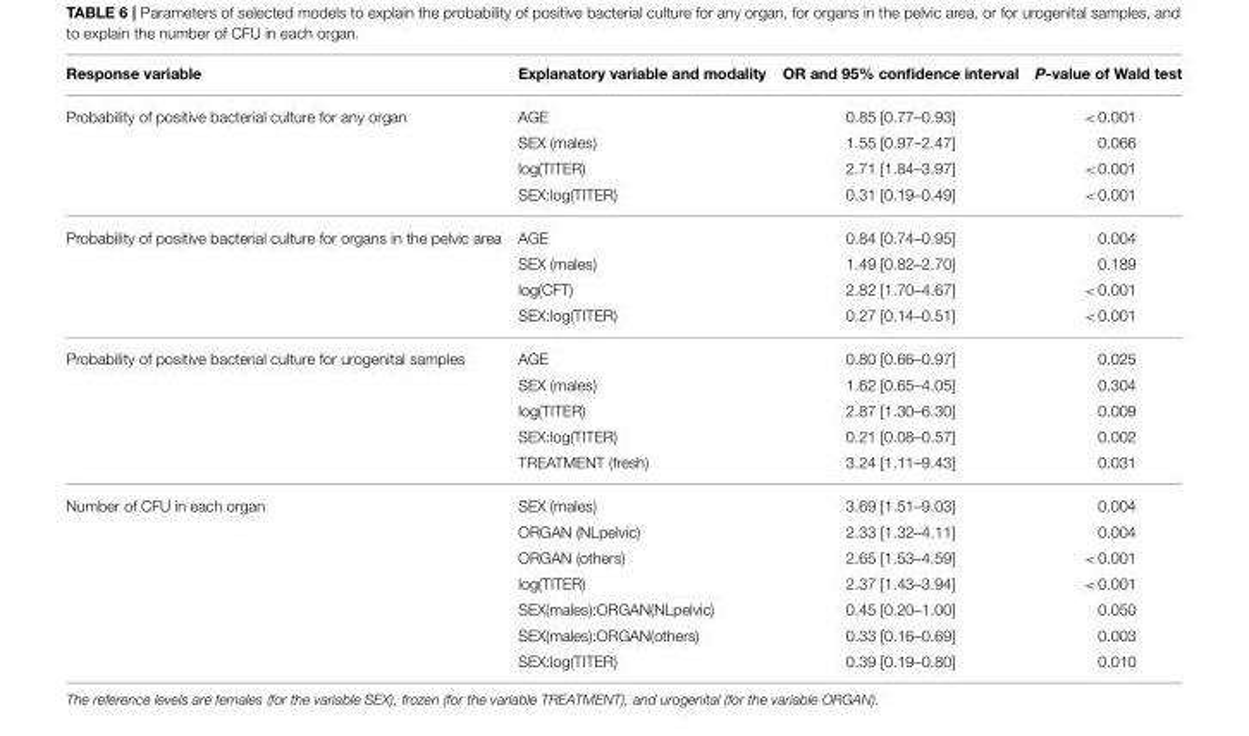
<table><thead><tr><td>Response variable</td><td>Explanatory variable and modality</td><td>OR and 95% confidence interval</td><td>P-value of Wald test</td></tr></thead><tbody><tr><td rowspan="4">Probability of positive bacterial culture for any organ</td><td>AGE</td><td>0.85 [0.77–0.93]</td><td>&lt;0.001</td></tr><tr><td>SEX (males)</td><td>1.55 [0.97–2.47]</td><td>0.066</td></tr><tr><td>log(TITER)</td><td>2.71 [1.84–3.97]</td><td>&lt;0.001</td></tr><tr><td>SEX:log(TITER)</td><td>0.31 [0.19–0.49]</td><td>&lt;0.001</td></tr><tr><td rowspan="4">Probability of positive bacterial culture for organs in the pelvic area</td><td>AGE</td><td>0.84 [0.74–0.95]</td><td>0.004</td></tr><tr><td>SEX (males)</td><td>1.49 [0.82–2.70]</td><td>0.189</td></tr><tr><td>log(CFT)</td><td>2.82 [1.70–4.67]</td><td>&lt;0.001</td></tr><tr><td>SEX:log(TITER)</td><td>0.27 [0.14–0.51]</td><td>&lt;0.001</td></tr><tr><td rowspan="5">Probability of positive bacterial culture for urogenital samples</td><td>AGE</td><td>0.80 [0.66–0.97]</td><td>0.025</td></tr><tr><td>SEX (males)</td><td>1.62 [0.65–4.05]</td><td>0.304</td></tr><tr><td>log(TITER)</td><td>2.87 [1.30–6.30]</td><td>0.009</td></tr><tr><td>SEX:log(TITER)</td><td>0.21 [0.08–0.57]</td><td>0.002</td></tr><tr><td>TREATMENT (fresh)</td><td>3.24 [1.11–9.43]</td><td>0.031</td></tr><tr><td rowspan="7">Number of CFU in each organ</td><td>SEX (males)</td><td>3.69 [1.51–9.03]</td><td>0.004</td></tr><tr><td>ORGAN (NLpelvic)</td><td>2.33 [1.32–4.11]</td><td>0.004</td></tr><tr><td>ORGAN (others)</td><td>2.65 [1.53–4.59]</td><td>&lt;0.001</td></tr><tr><td>log(TITER)</td><td>2.37 [1.43–3.94]</td><td>&lt;0.001</td></tr><tr><td>SEX(males):ORGAN(NLpelvic)</td><td>0.45 [0.20–1.00]</td><td>0.050</td></tr><tr><td>SEX(males):ORGAN(others)</td><td>0.33 [0.16–0.69]</td><td>0.003</td></tr><tr><td>SEX:log(TITER)</td><td>0.39 [0.19–0.80]</td><td>0.010</td></tr></tbody></table>